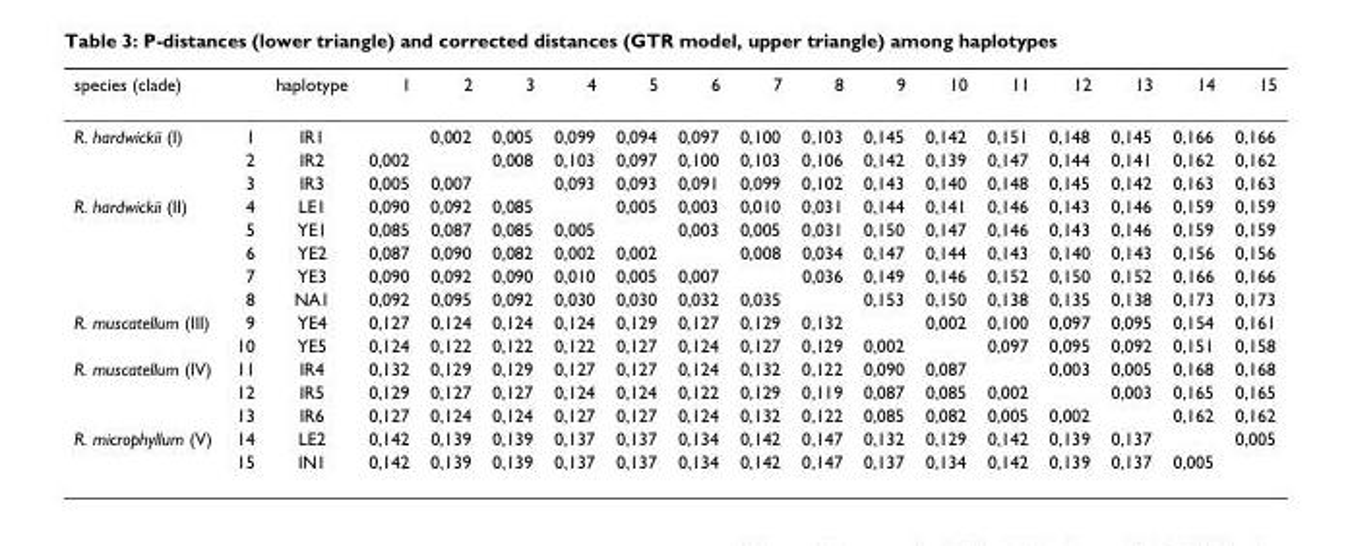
<table><thead><tr><td>species (clade)</td><td></td><td>haplotype</td><td>1</td><td>2</td><td>3</td><td>4</td><td>5</td><td>6</td><td>7</td><td>8</td><td>9</td><td>10</td><td>11</td><td>12</td><td>13</td><td>14</td><td>15</td></tr></thead><tbody><tr><td rowspan="3">R. hardwickii (I)</td><td>1</td><td>IR1</td><td></td><td>0,002</td><td>0,005</td><td>0,099</td><td>0,094</td><td>0,097</td><td>0,100</td><td>0,103</td><td>0,145</td><td>0,142</td><td>0,151</td><td>0,148</td><td>0,145</td><td>0,166</td><td>0,166</td></tr><tr><td>2</td><td>IR2</td><td>0,002</td><td></td><td>0,008</td><td>0,103</td><td>0,097</td><td>0,100</td><td>0,103</td><td>0,106</td><td>0,142</td><td>0,139</td><td>0,147</td><td>0,144</td><td>0,141</td><td>0,162</td><td>0,162</td></tr><tr><td>3</td><td>IR3</td><td>0,005</td><td>0,007</td><td></td><td>0,093</td><td>0,093</td><td>0,091</td><td>0,099</td><td>0,102</td><td>0,143</td><td>0,140</td><td>0,148</td><td>0,145</td><td>0,142</td><td>0,163</td><td>0,163</td></tr><tr><td rowspan="5">R. hardwickii (II)</td><td>4</td><td>LE1</td><td>0,090</td><td>0,092</td><td>0,085</td><td></td><td>0,005</td><td>0,003</td><td>0,010</td><td>0,031</td><td>0,144</td><td>0,141</td><td>0,146</td><td>0,143</td><td>0,146</td><td>0,159</td><td>0,159</td></tr><tr><td>5</td><td>YE1</td><td>0,085</td><td>0,087</td><td>0,085</td><td>0,005</td><td></td><td>0,003</td><td>0,005</td><td>0,031</td><td>0,150</td><td>0,147</td><td>0,146</td><td>0,143</td><td>0,146</td><td>0,159</td><td>0,159</td></tr><tr><td>6</td><td>YE2</td><td>0,087</td><td>0,090</td><td>0,082</td><td>0,002</td><td>0,002</td><td></td><td>0,008</td><td>0,034</td><td>0,147</td><td>0,144</td><td>0,143</td><td>0,140</td><td>0,143</td><td>0,156</td><td>0,156</td></tr><tr><td>7</td><td>YE3</td><td>0,090</td><td>0,092</td><td>0,090</td><td>0,010</td><td>0,005</td><td>0,007</td><td></td><td>0,036</td><td>0,149</td><td>0,146</td><td>0,152</td><td>0,150</td><td>0,152</td><td>0,166</td><td>0,166</td></tr><tr><td>8</td><td>NA1</td><td>0,092</td><td>0,095</td><td>0,092</td><td>0,030</td><td>0,030</td><td>0,032</td><td>0,035</td><td></td><td>0,153</td><td>0,150</td><td>0,138</td><td>0,135</td><td>0,138</td><td>0,173</td><td>0,173</td></tr><tr><td rowspan="2">R. muscatellum (III)</td><td>9</td><td>YE4</td><td>0,127</td><td>0,124</td><td>0,124</td><td>0,124</td><td>0,129</td><td>0,127</td><td>0,129</td><td>0,132</td><td></td><td>0,002</td><td>0,100</td><td>0,097</td><td>0,095</td><td>0,154</td><td>0,161</td></tr><tr><td>10</td><td>YE5</td><td>0,124</td><td>0,122</td><td>0,122</td><td>0,122</td><td>0,127</td><td>0,124</td><td>0,127</td><td>0,129</td><td>0,002</td><td></td><td>0,097</td><td>0,095</td><td>0,092</td><td>0,151</td><td>0,158</td></tr><tr><td rowspan="3">R. muscatellum (IV)</td><td>11</td><td>IR4</td><td>0,132</td><td>0,129</td><td>0,129</td><td>0,127</td><td>0,127</td><td>0,124</td><td>0,132</td><td>0,122</td><td>0,090</td><td>0,087</td><td></td><td>0,003</td><td>0,005</td><td>0,168</td><td>0,168</td></tr><tr><td>12</td><td>IR5</td><td>0,129</td><td>0,127</td><td>0,127</td><td>0,124</td><td>0,124</td><td>0,122</td><td>0,129</td><td>0,119</td><td>0,087</td><td>0,085</td><td>0,002</td><td></td><td>0,003</td><td>0,165</td><td>0,165</td></tr><tr><td>13</td><td>IR6</td><td>0,127</td><td>0,124</td><td>0,124</td><td>0,127</td><td>0,127</td><td>0,124</td><td>0,132</td><td>0,122</td><td>0,085</td><td>0,082</td><td>0,005</td><td>0,002</td><td></td><td>0,162</td><td>0,162</td></tr><tr><td rowspan="2">R. microphyllum (V)</td><td>14</td><td>LE2</td><td>0,142</td><td>0,139</td><td>0,139</td><td>0,137</td><td>0,137</td><td>0,134</td><td>0,142</td><td>0,147</td><td>0,132</td><td>0,129</td><td>0,142</td><td>0,139</td><td>0,137</td><td></td><td>0,005</td></tr><tr><td>15</td><td>IN1</td><td>0,142</td><td>0,139</td><td>0,139</td><td>0,137</td><td>0,137</td><td>0,134</td><td>0,142</td><td>0,147</td><td>0,137</td><td>0,134</td><td>0,142</td><td>0,139</td><td>0,137</td><td>0,005</td><td></td></tr></tbody></table>